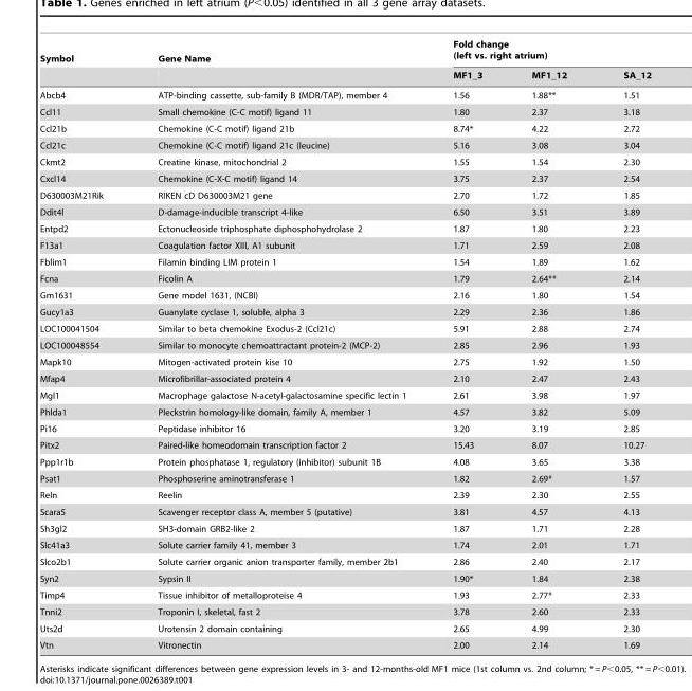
<table><thead><tr><td rowspan="2">Symbol</td><td rowspan="2">Gene Name</td><td colspan="3">Fold change (left vs. right atrium)</td></tr><tr><td>MF1_3</td><td>MF1_12</td><td>SA_12</td></tr></thead><tbody><tr><td>Abcb4</td><td>ATP-binding cassette, sub-family B (MDR/TAP), member 4</td><td>1.56</td><td>1.88**</td><td>1.51</td></tr><tr><td>Ccl11</td><td>Small chemokine (C-C motif) ligand 11</td><td>1.80</td><td>2.37</td><td>3.18</td></tr><tr><td>Ccl21b</td><td>Chemokine (C-C motif) ligand 21b</td><td>8.74*</td><td>4.22</td><td>2.72</td></tr><tr><td>Ccl21c</td><td>Chemokine (C-C motif) ligand 21c (leucine)</td><td>5.16</td><td>3.08</td><td>3.04</td></tr><tr><td>Ckmt2</td><td>Creatine kinase, mitochondrial 2</td><td>1.55</td><td>1.54</td><td>2.30</td></tr><tr><td>Cxcl14</td><td>Chemokine (C-X-C motif) ligand 14</td><td>3.75</td><td>2.37</td><td>2.54</td></tr><tr><td>D630003M21Rik</td><td>RIKEN cD D630003M21 gene</td><td>2.70</td><td>1.72</td><td>1.85</td></tr><tr><td>Ddit4l</td><td>D-damage-inducible transcript 4-like</td><td>6.50</td><td>3.51</td><td>3.89</td></tr><tr><td>Entpd2</td><td>Ectonucleoside triphosphate diphosphohydrolase 2</td><td>1.87</td><td>1.80</td><td>2.23</td></tr><tr><td>F13a1</td><td>Coagulation factor XIII, A1 subunit</td><td>1.71</td><td>2.59</td><td>2.08</td></tr><tr><td>Fblim1</td><td>Filamin binding LIM protein 1</td><td>1.54</td><td>1.89</td><td>1.62</td></tr><tr><td>Fcna</td><td>Ficolin A</td><td>1.79</td><td>2.64**</td><td>2.14</td></tr><tr><td>Gm1631</td><td>Gene model 1631, (NCBI)</td><td>2.16</td><td>1.80</td><td>1.54</td></tr><tr><td>Gucy1a3</td><td>Guanylate cyclase 1, soluble, alpha 3</td><td>2.29</td><td>2.36</td><td>1.86</td></tr><tr><td>LOC100041504</td><td>Similar to beta chemokine Exodus-2 (Ccl21c)</td><td>5.91</td><td>2.88</td><td>2.74</td></tr><tr><td>LOC100048554</td><td>Similar to monocyte chemoattractant protein-2 (MCP-2)</td><td>2.85</td><td>2.96</td><td>1.93</td></tr><tr><td>Mapk10</td><td>Mitogen-activated protein kise 10</td><td>2.75</td><td>1.92</td><td>1.50</td></tr><tr><td>Mfap4</td><td>Microfibrillar-associated protein 4</td><td>2.10</td><td>2.47</td><td>2.43</td></tr><tr><td>Mgl1</td><td>Macrophage galactose N-acetyl-galactosamine specific lectin 1</td><td>2.61</td><td>3.98</td><td>1.97</td></tr><tr><td>Phlda1</td><td>Pleckstrin homology-like domain, family A, member 1</td><td>4.57</td><td>3.82</td><td>5.09</td></tr><tr><td>Pi16</td><td>Peptidase inhibitor 16</td><td>3.20</td><td>3.19</td><td>2.85</td></tr><tr><td>Pitx2</td><td>Paired-like homeodomain transcription factor 2</td><td>15.43</td><td>8.07</td><td>10.27</td></tr><tr><td>Ppp1r1b</td><td>Protein phosphatase 1, regulatory (inhibitor) subunit 1B</td><td>4.08</td><td>3.65</td><td>3.38</td></tr><tr><td>Psat1</td><td>Phosphoserine aminotransferase 1</td><td>1.82</td><td>2.69*</td><td>1.57</td></tr><tr><td>Reln</td><td>Reelin</td><td>2.39</td><td>2.30</td><td>2.55</td></tr><tr><td>Scara5</td><td>Scavenger receptor class A, member 5 (putative)</td><td>3.81</td><td>4.57</td><td>4.13</td></tr><tr><td>Sh3gl2</td><td>SH3-domain GRB2-like 2</td><td>1.87</td><td>1.71</td><td>2.28</td></tr><tr><td>Slc41a3</td><td>Solute carrier family 41, member 3</td><td>1.74</td><td>2.01</td><td>1.71</td></tr><tr><td>Slco2b1</td><td>Solute carrier organic anion transporter family, member 2b1</td><td>2.86</td><td>2.40</td><td>2.17</td></tr><tr><td>Syn2</td><td>Sypsin II</td><td>1.90*</td><td>1.84</td><td>2.38</td></tr><tr><td>Timp4</td><td>Tissue inhibitor of metalloproteise 4</td><td>1.93</td><td>2.77*</td><td>2.33</td></tr><tr><td>Tnni2</td><td>Troponin I, skeletal, fast 2</td><td>3.78</td><td>2.60</td><td>2.33</td></tr><tr><td>Uts2d</td><td>Urotensin 2 domain containing</td><td>2.65</td><td>4.99</td><td>2.30</td></tr><tr><td>Vtn</td><td>Vitronectin</td><td>2.00</td><td>2.14</td><td>1.69</td></tr></tbody></table>